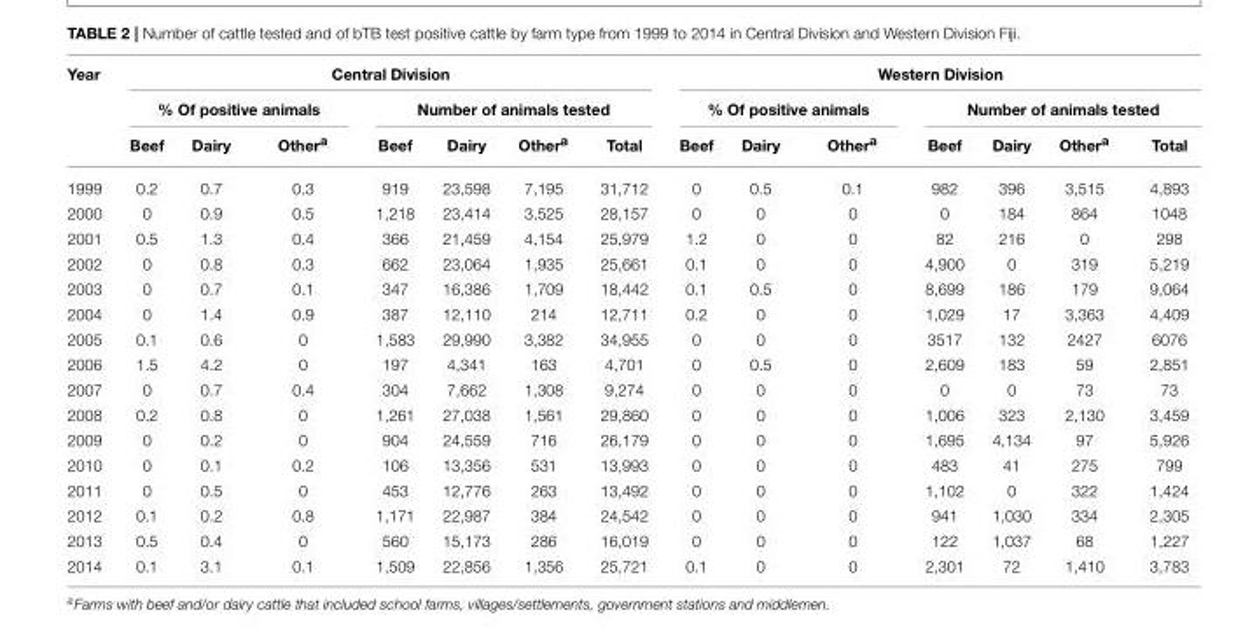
<table><thead><tr><td rowspan="3">Year</td><td colspan="7">Central Division</td><td colspan="7">Western Division</td></tr><tr><td colspan="3">% Of positive animals</td><td colspan="4">Number of animals tested</td><td colspan="3">% Of positive animals</td><td colspan="4">Number of animals tested</td></tr><tr><td>Beef</td><td>Dairy</td><td>Other<sup>a</sup></td><td>Beef</td><td>Dairy</td><td>Other<sup>a</sup></td><td>Total</td><td>Beef</td><td>Dairy</td><td>Other<sup>a</sup></td><td>Beef</td><td>Dairy</td><td>Other<sup>a</sup></td><td>Total</td></tr></thead><tbody><tr><td>1999</td><td>0.2</td><td>0.7</td><td>0.3</td><td>919</td><td>23,598</td><td>7,195</td><td>31,712</td><td>0</td><td>0.5</td><td>0.1</td><td>982</td><td>396</td><td>3,515</td><td>4,893</td></tr><tr><td>2000</td><td>0</td><td>0.9</td><td>0.5</td><td>1,218</td><td>23,414</td><td>3,525</td><td>28,157</td><td>0</td><td>0</td><td>0</td><td>0</td><td>184</td><td>864</td><td>1048</td></tr><tr><td>2001</td><td>0.5</td><td>1.3</td><td>0.4</td><td>366</td><td>21,459</td><td>4,154</td><td>25,979</td><td>1.2</td><td>0</td><td>0</td><td>82</td><td>216</td><td>0</td><td>298</td></tr><tr><td>2002</td><td>0</td><td>0.8</td><td>0.3</td><td>662</td><td>23,064</td><td>1,935</td><td>25,661</td><td>0.1</td><td>0</td><td>0</td><td>4,900</td><td>0</td><td>319</td><td>5,219</td></tr><tr><td>2003</td><td>0</td><td>0.7</td><td>0.1</td><td>347</td><td>16,386</td><td>1,709</td><td>18,442</td><td>0.1</td><td>0.5</td><td>0</td><td>8,699</td><td>186</td><td>179</td><td>9,064</td></tr><tr><td>2004</td><td>0</td><td>1.4</td><td>0.9</td><td>387</td><td>12,110</td><td>214</td><td>12,711</td><td>0.2</td><td>0</td><td>0</td><td>1,029</td><td>17</td><td>3,363</td><td>4,409</td></tr><tr><td>2005</td><td>0.1</td><td>0.6</td><td>0</td><td>1,583</td><td>29,990</td><td>3,382</td><td>34,955</td><td>0</td><td>0</td><td>0</td><td>3517</td><td>132</td><td>2427</td><td>6076</td></tr><tr><td>2006</td><td>1.5</td><td>4.2</td><td>0</td><td>197</td><td>4,341</td><td>163</td><td>4,701</td><td>0</td><td>0.5</td><td>0</td><td>2,609</td><td>183</td><td>59</td><td>2,851</td></tr><tr><td>2007</td><td>0</td><td>0.7</td><td>0.4</td><td>304</td><td>7,662</td><td>1,308</td><td>9,274</td><td>0</td><td>0</td><td>0</td><td>0</td><td>0</td><td>73</td><td>73</td></tr><tr><td>2008</td><td>0.2</td><td>0.8</td><td>0</td><td>1,261</td><td>27,038</td><td>1,561</td><td>29,860</td><td>0</td><td>0</td><td>0</td><td>1,006</td><td>323</td><td>2,130</td><td>3,459</td></tr><tr><td>2009</td><td>0</td><td>0.2</td><td>0</td><td>904</td><td>24,559</td><td>716</td><td>26,179</td><td>0</td><td>0</td><td>0</td><td>1,695</td><td>4,134</td><td>97</td><td>5,926</td></tr><tr><td>2010</td><td>0</td><td>0.1</td><td>0.2</td><td>106</td><td>13,356</td><td>531</td><td>13,993</td><td>0</td><td>0</td><td>0</td><td>483</td><td>41</td><td>275</td><td>799</td></tr><tr><td>2011</td><td>0</td><td>0.5</td><td>0</td><td>453</td><td>12,776</td><td>263</td><td>13,492</td><td>0</td><td>0</td><td>0</td><td>1,102</td><td>0</td><td>322</td><td>1,424</td></tr><tr><td>2012</td><td>0.1</td><td>0.2</td><td>0.8</td><td>1,171</td><td>22,987</td><td>384</td><td>24,542</td><td>0</td><td>0</td><td>0</td><td>941</td><td>1,030</td><td>334</td><td>2,305</td></tr><tr><td>2013</td><td>0.5</td><td>0.4</td><td>0</td><td>560</td><td>15,173</td><td>286</td><td>16,019</td><td>0</td><td>0</td><td>0</td><td>122</td><td>1,037</td><td>68</td><td>1,227</td></tr><tr><td>2014</td><td>0.1</td><td>3.1</td><td>0.1</td><td>1,509</td><td>22,856</td><td>1,356</td><td>25,721</td><td>0.1</td><td>0</td><td>0</td><td>2,301</td><td>72</td><td>1,410</td><td>3,783</td></tr></tbody></table>